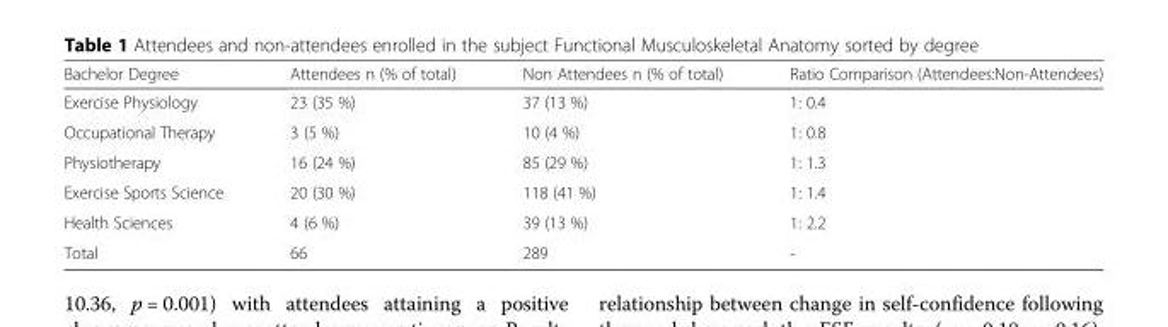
<table><thead><tr><td>Bachelor Degree</td><td>Attendees n (% of total)</td><td>Non Attendees n (% of total)</td><td>Ratio Comparison (Attendees:Non-Attendees)</td></tr></thead><tbody><tr><td>Exercise Physiology</td><td>23 (35 %)</td><td>37 (13 %)</td><td>1: 0.4</td></tr><tr><td>Occupational Therapy</td><td>3 (5 %)</td><td>10 (4 %)</td><td>1: 0.8</td></tr><tr><td>Physiotherapy</td><td>16 (24 %)</td><td>85 (29 %)</td><td>1: 1.3</td></tr><tr><td>Exercise Sports Science</td><td>20 (30 %)</td><td>118 (41 %)</td><td>1: 1.4</td></tr><tr><td>Health Sciences</td><td>4 (6 %)</td><td>39 (13 %)</td><td>1: 2.2</td></tr><tr><td>Total</td><td>66</td><td>289</td><td>-</td></tr></tbody></table>